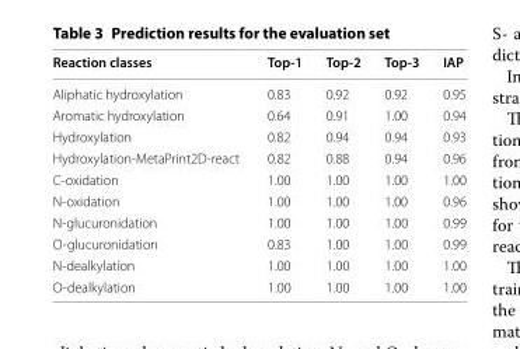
<table><thead><tr><td>Reaction classes</td><td>Top-1</td><td>Top-2</td><td>Top-3</td><td>IAP</td></tr></thead><tbody><tr><td>Aliphatic hydroxylation</td><td>0.83</td><td>0.92</td><td>0.92</td><td>0.95</td></tr><tr><td>Aromatic hydroxylation</td><td>0.64</td><td>0.91</td><td>1.00</td><td>0.94</td></tr><tr><td>Hydroxylation</td><td>0.82</td><td>0.94</td><td>0.94</td><td>0.93</td></tr><tr><td>Hydroxylation-MetaPrint2D-react</td><td>0.82</td><td>0.88</td><td>0.94</td><td>0.96</td></tr><tr><td>C-oxidation</td><td>1.00</td><td>1.00</td><td>1.00</td><td>1.00</td></tr><tr><td>N-oxidation</td><td>1.00</td><td>1.00</td><td>1.00</td><td>0.96</td></tr><tr><td>N-glucuronidation</td><td>1.00</td><td>1.00</td><td>1.00</td><td>0.99</td></tr><tr><td>O-glucuronidation</td><td>0.83</td><td>1.00</td><td>1.00</td><td>0.99</td></tr><tr><td>N-dealkylation</td><td>1.00</td><td>1.00</td><td>1.00</td><td>1.00</td></tr><tr><td>O-dealkylation</td><td>1.00</td><td>1.00</td><td>1.00</td><td>1.00</td></tr></tbody></table>